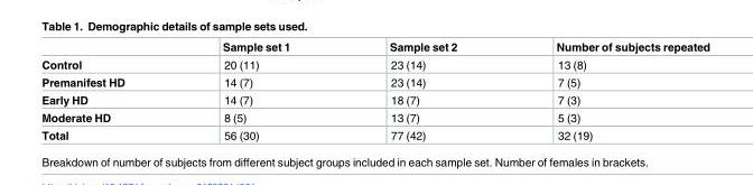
<table><thead><tr><td></td><td>Sample set 1</td><td>Sample set 2</td><td>Number of subjects repeated</td></tr></thead><tbody><tr><td>Control</td><td>20 (11)</td><td>23 (14)</td><td>13 (8)</td></tr><tr><td>Premanifest HD</td><td>14 (7)</td><td>23 (14)</td><td>7 (5)</td></tr><tr><td>Early HD</td><td>14 (7)</td><td>18 (7)</td><td>7 (3)</td></tr><tr><td>Moderate HD</td><td>8 (5)</td><td>13 (7)</td><td>5 (3)</td></tr><tr><td>Total</td><td>56 (30)</td><td>77 (42)</td><td>32 (19)</td></tr></tbody></table>